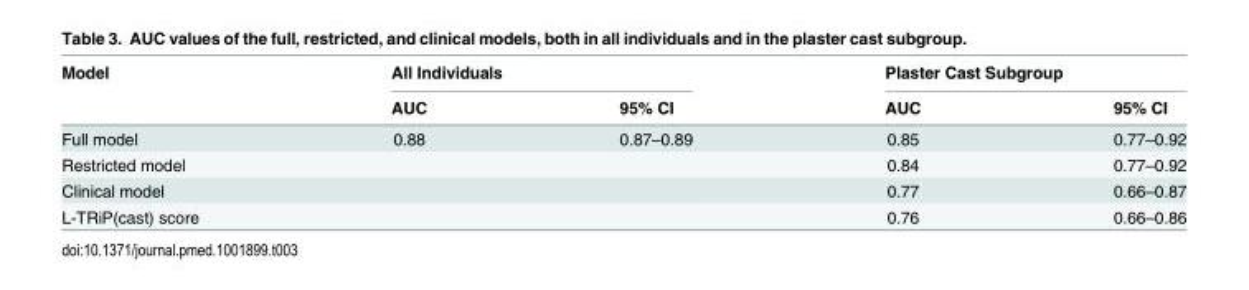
<table><thead><tr><td rowspan="2">Model</td><td colspan="2">All Individuals</td><td colspan="2">Plaster Cast Subgroup</td></tr><tr><td>AUC</td><td>95% CI</td><td>AUC</td><td>95% CI</td></tr></thead><tbody><tr><td>Full model</td><td>0.88</td><td>0.87–0.89</td><td>0.85</td><td>0.77–0.92</td></tr><tr><td>Restricted model</td><td></td><td></td><td>0.84</td><td>0.77–0.92</td></tr><tr><td>Clinical model</td><td></td><td></td><td>0.77</td><td>0.66–0.87</td></tr><tr><td>L-TRiP(cast) score</td><td></td><td></td><td>0.76</td><td>0.66–0.86</td></tr></tbody></table>